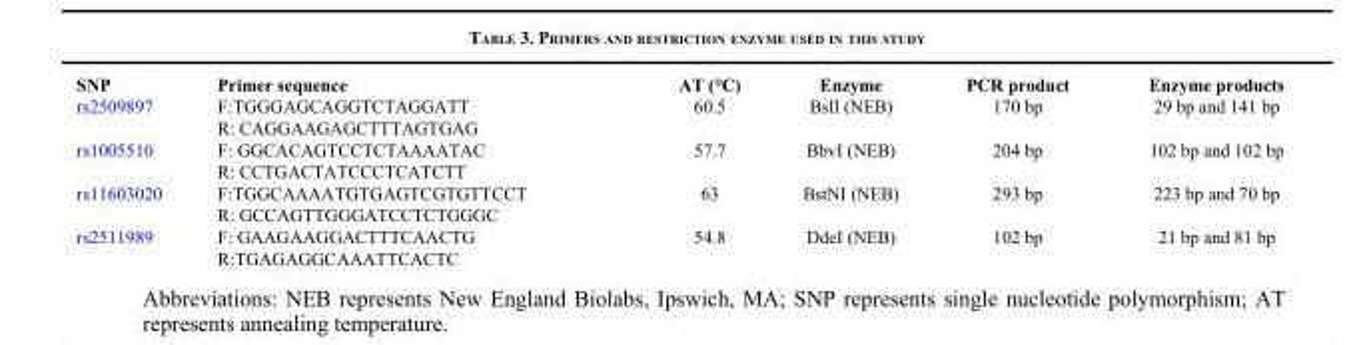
<table><thead><tr><td>SNP</td><td>Primer sequence</td><td>AT (°C)</td><td>Enzyme</td><td>PCR product</td><td>Enzyme products</td></tr></thead><tbody><tr><td rowspan="2">rs2509897</td><td>F:TGGGAGCAGGTCTAGGATT</td><td rowspan="2">60.5</td><td rowspan="2">BslI (NEB)</td><td rowspan="2">170 bp</td><td rowspan="2">29 bp and 141 bp</td></tr><tr><td>R: CAGGAAGAGCTTTAGTGAG</td></tr><tr><td rowspan="2">rs1005510</td><td>F: GGCACAGTCCTCTAAAATAC</td><td rowspan="2">57.7</td><td rowspan="2">BbvI (NEB)</td><td rowspan="2">204 bp</td><td rowspan="2">102 bp and 102 bp</td></tr><tr><td>R: CCTGACTATCCCTCATCTT</td></tr><tr><td rowspan="2">rs11603020</td><td>F:TGGCAAAATGTGAGTCGTGTTCCT</td><td rowspan="2">63</td><td rowspan="2">BstNI (NEB)</td><td rowspan="2">293 bp</td><td rowspan="2">223 bp and 70 bp</td></tr><tr><td>R: GCCAGTTGGGATCCTCTGGGC</td></tr><tr><td rowspan="2">rs2511989</td><td>F: GAAGAAGGACTTTCAACTG</td><td rowspan="2">54.8</td><td rowspan="2">DdeI (NEB)</td><td rowspan="2">102 bp</td><td rowspan="2">21 bp and 81 bp</td></tr><tr><td>R:TGAGAGGCAAATTCACTC</td></tr></tbody></table>